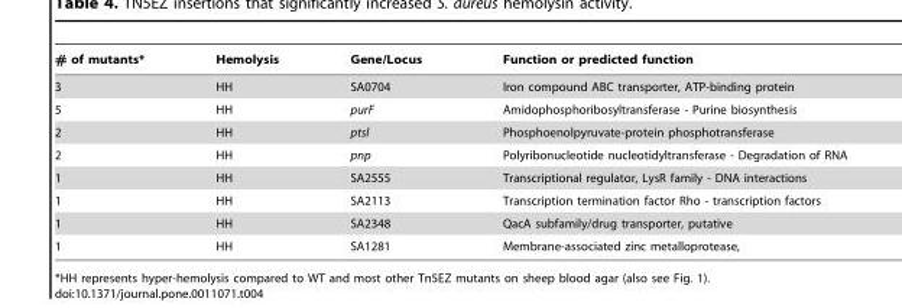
<table><thead><tr><td># of mutants*</td><td>Hemolysis</td><td>Gene/Locus</td><td>Function or predicted function</td></tr></thead><tbody><tr><td>3</td><td>HH</td><td>SA0704</td><td>Iron compound ABC transporter, ATP-binding protein</td></tr><tr><td>5</td><td>HH</td><td>purF</td><td>Amidophosphoribosyltransferase - Purine biosynthesis</td></tr><tr><td>2</td><td>HH</td><td>ptsl</td><td>Phosphoenolpyruvate-protein phosphotransferase</td></tr><tr><td>2</td><td>HH</td><td>pnp</td><td>Polyribonucleotide nucleotidyltransferase - Degradation of RNA</td></tr><tr><td>1</td><td>HH</td><td>SA2555</td><td>Transcriptional regulator, LysR family - DNA interactions</td></tr><tr><td>1</td><td>HH</td><td>SA2113</td><td>Transcription termination factor Rho - transcription factors</td></tr><tr><td>1</td><td>HH</td><td>SA2348</td><td>QacA subfamily/drug transporter, putative</td></tr><tr><td>1</td><td>HH</td><td>SA1281</td><td>Membrane-associated zinc metalloprotease,</td></tr></tbody></table>